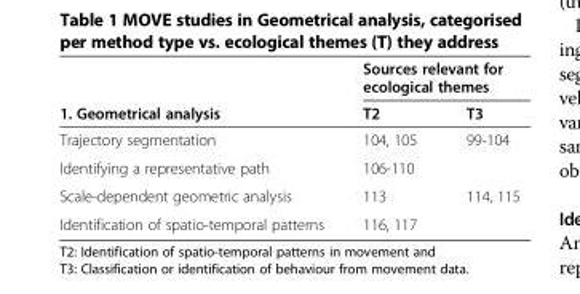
<table><thead><tr><td rowspan="2">1. Geometrical analysis</td><td colspan="2">Sources relevant for ecological themes</td></tr><tr><td>T2</td><td>T3</td></tr></thead><tbody><tr><td>Trajectory segmentation</td><td>104, 105</td><td>99-104</td></tr><tr><td>Identifying a representative path</td><td>106-110</td><td></td></tr><tr><td>Scale-dependent geometric analysis</td><td>113</td><td>114, 115</td></tr><tr><td>Identification of spatio-temporal patterns</td><td>116, 117</td><td></td></tr></tbody></table>